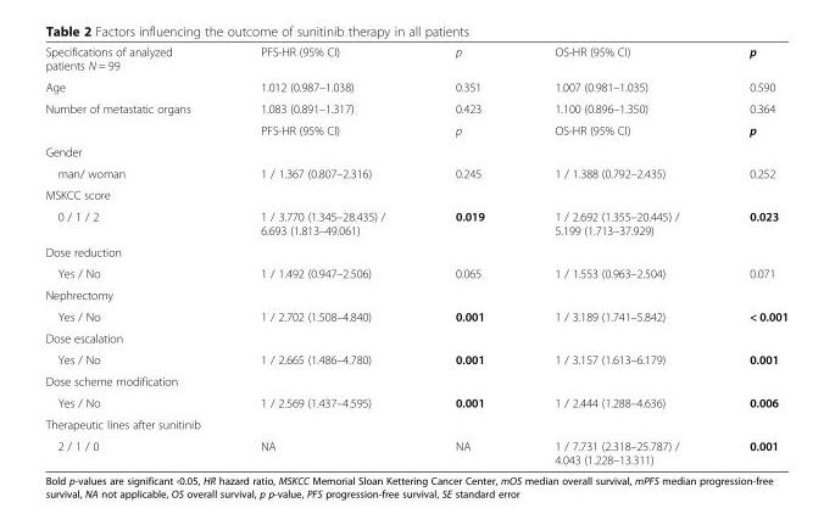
<table><tbody><tr><td>Specifications of analyzed patients N = 99</td><td>PFS-HR (95% CI)</td><td>p</td><td>OS-HR (95% CI)</td><td>p</td></tr><tr><td>Age</td><td>1.012 (0.987–1.038)</td><td>0.351</td><td>1.007 (0.981–1.035)</td><td>0.590</td></tr><tr><td rowspan="2">Number of metastatic organs</td><td>1.083 (0.891–1.317)</td><td>0.423</td><td>1.100 (0.896–1.350)</td><td>0.364</td></tr><tr><td>PFS-HR (95% CI)</td><td>p</td><td>OS-HR (95% CI)</td><td>p</td></tr><tr><td colspan="5">Gender</td></tr><tr><td>man/ woman</td><td>1 / 1.367 (0.807–2.316)</td><td>0.245</td><td>1 / 1.388 (0.792–2.435)</td><td>0.252</td></tr><tr><td colspan="5">MSKCC score</td></tr><tr><td>0 / 1 / 2</td><td>1 / 3.770 (1.345–28.435) / 6.693 (1.813–49.061)</td><td>0.019</td><td>1 / 2.692 (1.355–20.445) / 5.199 (1.713–37.929)</td><td>0.023</td></tr><tr><td colspan="5">Dose reduction</td></tr><tr><td>Yes / No</td><td>1 / 1.492 (0.947–2.506)</td><td>0.065</td><td>1 / 1.553 (0.963–2.504)</td><td>0.071</td></tr><tr><td colspan="5">Nephrectomy</td></tr><tr><td>Yes / No</td><td>1 / 2.702 (1.508–4.840)</td><td>0.001</td><td>1 / 3.189 (1.741–5.842)</td><td>&lt; 0.001</td></tr><tr><td colspan="5">Dose escalation</td></tr><tr><td>Yes / No</td><td>1 / 2.665 (1.486–4.780)</td><td>0.001</td><td>1 / 3.157 (1.613–6.179)</td><td>0.001</td></tr><tr><td colspan="5">Dose scheme modification</td></tr><tr><td>Yes / No</td><td>1 / 2.569 (1.437–4.595)</td><td>0.001</td><td>1 / 2.444 (1.288–4.636)</td><td>0.006</td></tr><tr><td colspan="5">Therapeutic lines after sunitinib</td></tr><tr><td>2 / 1 / 0</td><td>NA</td><td>NA</td><td>1 / 7.731 (2.318–25.787) / 4.043 (1.228–13.311)</td><td>0.001</td></tr></tbody></table>